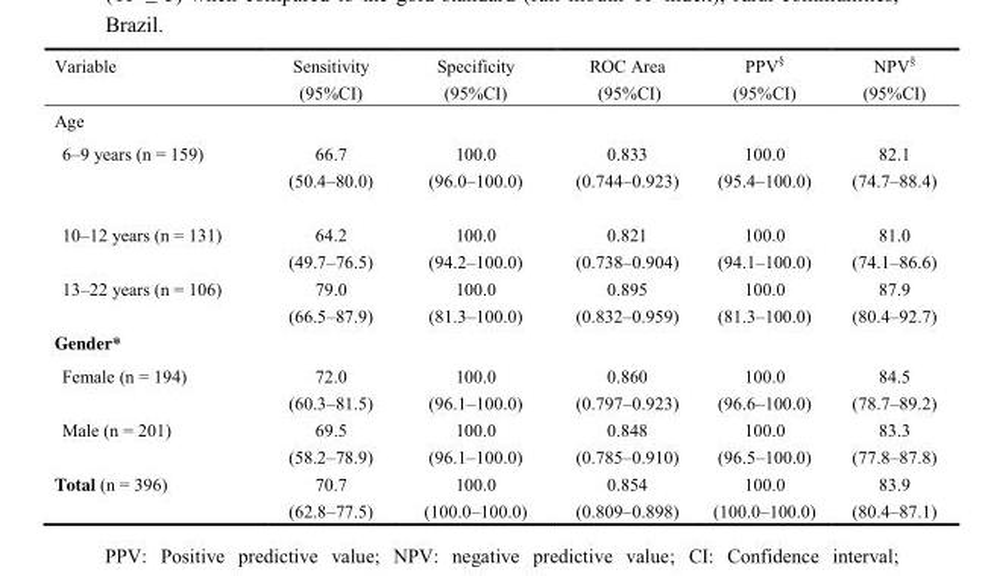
<table><thead><tr><td>Variable</td><td>Sensitivity (95%CI)</td><td>Specificity (95%CI)</td><td>ROC Area (95%CI)</td><td>PPV<sup>§</sup> (95%CI)</td><td>NPV<sup>§</sup> (95%CI)</td></tr></thead><tbody><tr><td colspan="6">Age</td></tr><tr><td>6–9 years (n = 159)</td><td>66.7 (50.4–80.0)</td><td>100.0 (96.0–100.0)</td><td>0.833 (0.744–0.923)</td><td>100.0 (95.4–100.0)</td><td>82.1 (74.7–88.4)</td></tr><tr><td>10–12 years (n = 131)</td><td>64.2 (49.7–76.5)</td><td>100.0 (94.2–100.0)</td><td>0.821 (0.738–0.904)</td><td>100.0 (94.1–100.0)</td><td>81.0 (74.1–86.6)</td></tr><tr><td>13–22 years (n = 106)</td><td>79.0 (66.5–87.9)</td><td>100.0 (81.3–100.0)</td><td>0.895 (0.832–0.959)</td><td>100.0 (81.3–100.0)</td><td>87.9 (80.4–92.7)</td></tr><tr><td colspan="6">Gender*</td></tr><tr><td>Female (n = 194)</td><td>72.0 (60.3–81.5)</td><td>100.0 (96.1–100.0)</td><td>0.860 (0.797–0.923)</td><td>100.0 (96.6–100.0)</td><td>84.5 (78.7–89.2)</td></tr><tr><td>Male (n = 201)</td><td>69.5 (58.2–78.9)</td><td>100.0 (96.1–100.0)</td><td>0.848 (0.785–0.910)</td><td>100.0 (96.5–100.0)</td><td>83.3 (77.8–87.8)</td></tr><tr><td>Total (n = 396)</td><td>70.7 (62.8–77.5)</td><td>100.0 (100.0–100.0)</td><td>0.854 (0.809–0.898)</td><td>100.0 (100.0–100.0)</td><td>83.9 (80.4–87.1)</td></tr></tbody></table>